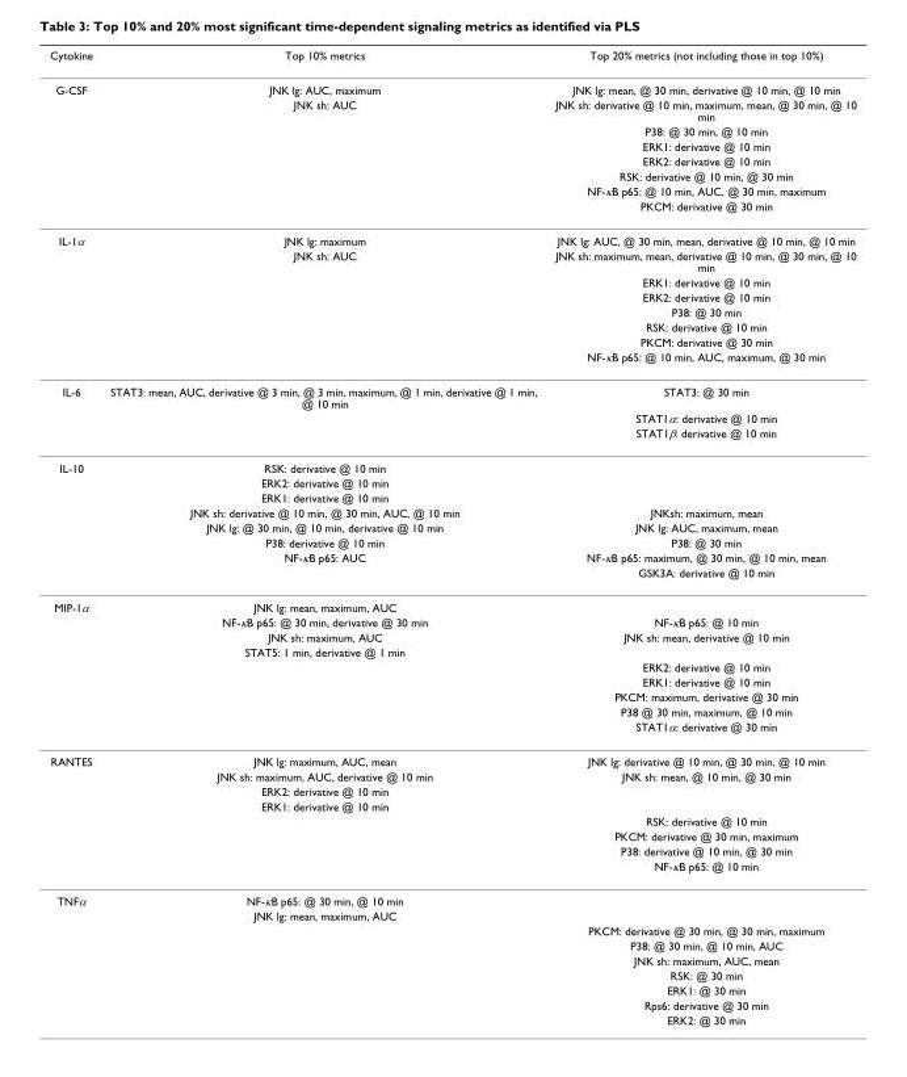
<table><thead><tr><td>Cytokine</td><td>Top 10% metrics</td><td>Top 20% metrics (not including those in top 10%)</td></tr></thead><tbody><tr><td rowspan="8">G-CSF</td><td>JNK lg: AUC, maximum</td><td>JNK lg: mean, @ 30 min, derivative @ 10 min, @ 10 min</td></tr><tr><td>JNK sh: AUC</td><td>JNK sh: derivative @ 10 min, maximum, mean, @ 30 min, @ 10 min</td></tr><tr><td></td><td>P38: @ 30 min, @ 10 min</td></tr><tr><td></td><td>ERK1: derivative @ 10 min</td></tr><tr><td></td><td>ERK2: derivative @ 10 min</td></tr><tr><td></td><td>RSK: derivative @ 10 min, @ 30 min</td></tr><tr><td></td><td>NF-κB p65: @ 10 min, AUC, @ 30 min, maximum</td></tr><tr><td></td><td>PKCM: derivative @ 30 min</td></tr><tr><td rowspan="8">IL-1α</td><td>JNK lg: maximum</td><td>JNK lg: AUC, @ 30 min, mean, derivative @ 10 min, @ 10 min</td></tr><tr><td>JNK sh: AUC</td><td>JNK sh: maximum, mean, derivative @ 10 min, @ 30 min, @ 10 min</td></tr><tr><td></td><td>ERK1: derivative @ 10 min</td></tr><tr><td></td><td>ERK2: derivative @ 10 min</td></tr><tr><td></td><td>P38: @ 30 min</td></tr><tr><td></td><td>RSK: derivative @ 10 min</td></tr><tr><td></td><td>PKCM: derivative @ 30 min</td></tr><tr><td></td><td>NF-κB p65: @ 10 min, AUC, maximum, @ 30 min</td></tr><tr><td rowspan="3">IL-6</td><td>STAT3: mean, AUC, derivative @ 3 min, @ 3 min, maximum, @ 1 min, derivative @ 1 min, @ 10 min</td><td>STAT3: @ 30 min</td></tr><tr><td></td><td>STAT1α: derivative @ 10 min</td></tr><tr><td></td><td>STAT1β: derivative @ 10 min</td></tr><tr><td rowspan="8">IL-10</td><td>RSK: derivative @ 10 min</td><td></td></tr><tr><td>ERK2: derivative @ 10 min</td><td></td></tr><tr><td>ERK1: derivative @ 10 min</td><td></td></tr><tr><td>JNK sh: derivative @ 10 min, @ 30 min, AUC, @ 10 min</td><td>JNKsh: maximum, mean</td></tr><tr><td>JNK lg: @ 30 min, @ 10 min, derivative @ 10 min</td><td>JNK lg: AUC, maximum, mean</td></tr><tr><td>P38: derivative @ 10 min</td><td>P38: @ 30 min</td></tr><tr><td>NF-κB p65: AUC</td><td>NF-κB p65: maximum, @ 30 min, @ 10 min, mean</td></tr><tr><td></td><td>GSK3A: derivative @ 10 min</td></tr><tr><td rowspan="9">MIP-1α</td><td>JNK lg: mean, maximum, AUC</td><td></td></tr><tr><td>NF-κB p65: @ 30 min, derivative @ 30 min</td><td>NF-κB p65: @ 10 min</td></tr><tr><td>JNK sh: maximum, AUC</td><td>JNK sh: mean, derivative @ 10 min</td></tr><tr><td>STAT5: 1 min, derivative @ 1 min</td><td></td></tr><tr><td></td><td>ERK2: derivative @ 10 min</td></tr><tr><td></td><td>ERK1: derivative @ 10 min</td></tr><tr><td></td><td>PKCM: maximum, derivative @ 30 min</td></tr><tr><td></td><td>P38 @ 30 min, maximum, @ 10 min</td></tr><tr><td></td><td>STAT1α: derivative @ 30 min</td></tr><tr><td rowspan="8">RANTES</td><td>JNK lg: maximum, AUC, mean</td><td>JNK lg: derivative @ 10 min, @ 30 min, @ 10 min</td></tr><tr><td>JNK sh: maximum, AUC, derivative @ 10 min</td><td>JNK sh: mean, @ 10 min, @ 30 min</td></tr><tr><td>ERK2: derivative @ 10 min</td><td></td></tr><tr><td>ERK1: derivative @ 10 min</td><td></td></tr><tr><td></td><td>RSK: derivative @ 10 min</td></tr><tr><td></td><td>PKCM: derivative @ 30 min, maximum</td></tr><tr><td></td><td>P38: derivative @ 10 min, @ 30 min</td></tr><tr><td></td><td>NF-κB p65: @ 10 min</td></tr><tr><td rowspan="9">TNFα</td><td>NF-κB p65: @ 30 min, @ 10 min</td><td></td></tr><tr><td>JNK lg: mean, maximum, AUC</td><td></td></tr><tr><td></td><td>PKCM: derivative @ 30 min, @ 30 min, maximum</td></tr><tr><td></td><td>P38: @ 30 min, @ 10 min, AUC</td></tr><tr><td></td><td>JNK sh: maximum, AUC, mean</td></tr><tr><td></td><td>RSK: @ 30 min</td></tr><tr><td></td><td>ERK1: @ 30 min</td></tr><tr><td></td><td>Rps6: derivative @ 30 min</td></tr><tr><td></td><td>ERK2: @ 30 min</td></tr></tbody></table>